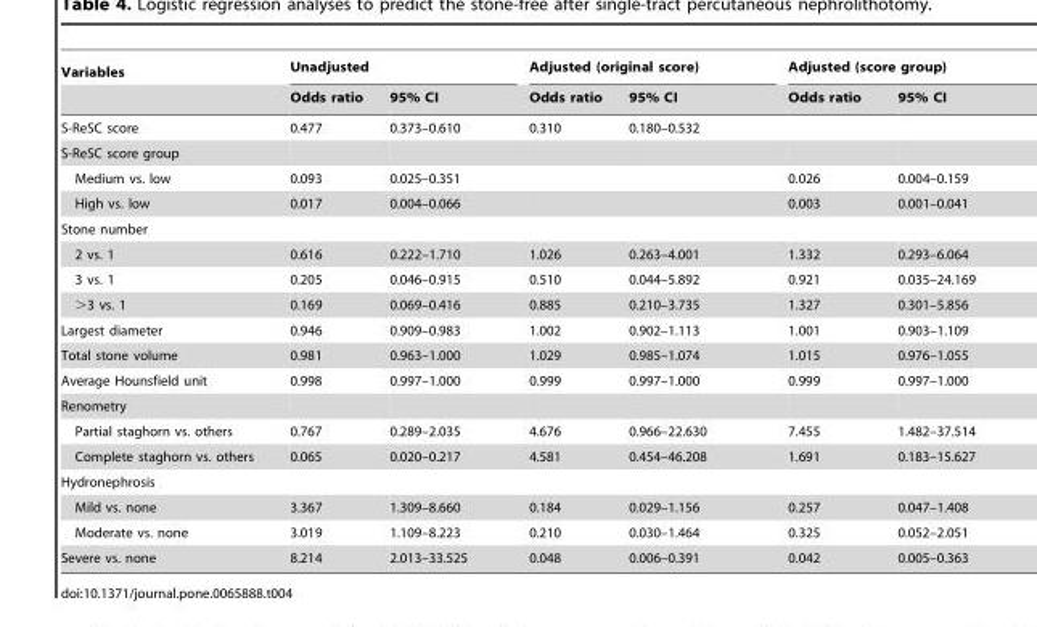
<table><thead><tr><td rowspan="2">Variables</td><td colspan="2">Unadjusted</td><td colspan="2">Adjusted (original score)</td><td colspan="2">Adjusted (score group)</td></tr><tr><td>Odds ratio</td><td>95% CI</td><td>Odds ratio</td><td>95% CI</td><td>Odds ratio</td><td>95% CI</td></tr></thead><tbody><tr><td>S-ReSC score</td><td>0.477</td><td>0.373–0.610</td><td>0.310</td><td>0.180–0.532</td><td></td><td></td></tr><tr><td colspan="7">S-ReSC score group</td></tr><tr><td>Medium vs. low</td><td>0.093</td><td>0.025–0.351</td><td></td><td></td><td>0.026</td><td>0.004–0.159</td></tr><tr><td>High vs. low</td><td>0.017</td><td>0.004–0.066</td><td></td><td></td><td>0.003</td><td>0.001–0.041</td></tr><tr><td colspan="7">Stone number</td></tr><tr><td>2 vs. 1</td><td>0.616</td><td>0.222–1.710</td><td>1.026</td><td>0.263–4.001</td><td>1.332</td><td>0.293–6.064</td></tr><tr><td>3 vs. 1</td><td>0.205</td><td>0.046–0.915</td><td>0.510</td><td>0.044–5.892</td><td>0.921</td><td>0.035–24.169</td></tr><tr><td>&gt;3 vs. 1</td><td>0.169</td><td>0.069–0.416</td><td>0.885</td><td>0.210–3.735</td><td>1.327</td><td>0.301–5.856</td></tr><tr><td>Largest diameter</td><td>0.946</td><td>0.909–0.983</td><td>1.002</td><td>0.902–1.113</td><td>1.001</td><td>0.903–1.109</td></tr><tr><td>Total stone volume</td><td>0.981</td><td>0.963–1.000</td><td>1.029</td><td>0.985–1.074</td><td>1.015</td><td>0.976–1.055</td></tr><tr><td>Average Hounsfield unit</td><td>0.998</td><td>0.997–1.000</td><td>0.999</td><td>0.997–1.000</td><td>0.999</td><td>0.997–1.000</td></tr><tr><td colspan="7">Renometry</td></tr><tr><td>Partial staghorn vs. others</td><td>0.767</td><td>0.289–2.035</td><td>4.676</td><td>0.966–22.630</td><td>7.455</td><td>1.482–37.514</td></tr><tr><td>Complete staghorn vs. others</td><td>0.065</td><td>0.020–0.217</td><td>4.581</td><td>0.454–46.208</td><td>1.691</td><td>0.183–15.627</td></tr><tr><td colspan="7">Hydronephrosis</td></tr><tr><td>Mild vs. none</td><td>3.367</td><td>1.309–8.660</td><td>0.184</td><td>0.029–1.156</td><td>0.257</td><td>0.047–1.408</td></tr><tr><td>Moderate vs. none</td><td>3.019</td><td>1.109–8.223</td><td>0.210</td><td>0.030–1.464</td><td>0.325</td><td>0.052–2.051</td></tr><tr><td>Severe vs. none</td><td>8.214</td><td>2.013–33.525</td><td>0.048</td><td>0.006–0.391</td><td>0.042</td><td>0.005–0.363</td></tr></tbody></table>